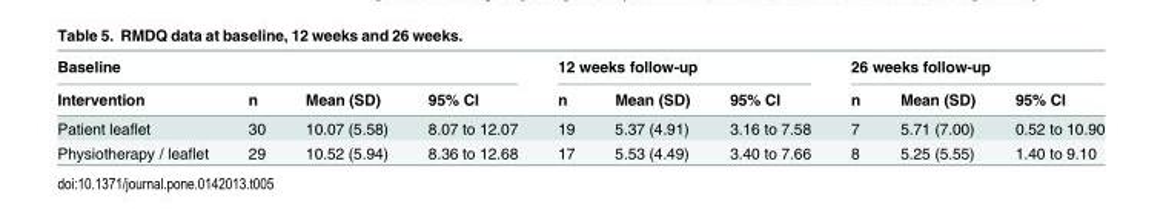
<table><thead><tr><td colspan="4">Baseline</td><td colspan="3">12 weeks follow-up</td><td colspan="3">26 weeks follow-up</td></tr><tr><td>Intervention</td><td>n</td><td>Mean (SD)</td><td>95% CI</td><td>n</td><td>Mean (SD)</td><td>95% CI</td><td>n</td><td>Mean (SD)</td><td>95% CI</td></tr></thead><tbody><tr><td>Patient leaflet</td><td>30</td><td>10.07 (5.58)</td><td>8.07 to 12.07</td><td>19</td><td>5.37 (4.91)</td><td>3.16 to 7.58</td><td>7</td><td>5.71 (7.00)</td><td>0.52 to 10.90</td></tr><tr><td>Physiotherapy / leaflet</td><td>29</td><td>10.52 (5.94)</td><td>8.36 to 12.68</td><td>17</td><td>5.53 (4.49)</td><td>3.40 to 7.66</td><td>8</td><td>5.25 (5.55)</td><td>1.40 to 9.10</td></tr></tbody></table>